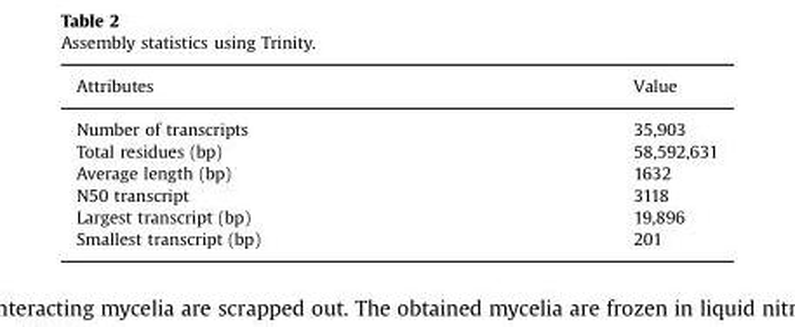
<table><thead><tr><td>Attributes</td><td>Value</td></tr></thead><tbody><tr><td>Number of transcripts</td><td>35,903</td></tr><tr><td>Total residues (bp)</td><td>58,592,631</td></tr><tr><td>Average length (bp)</td><td>1632</td></tr><tr><td>N50 transcript</td><td>3118</td></tr><tr><td>Largest transcript (bp)</td><td>19,896</td></tr><tr><td>Smallest transcript (bp)</td><td>201</td></tr></tbody></table>